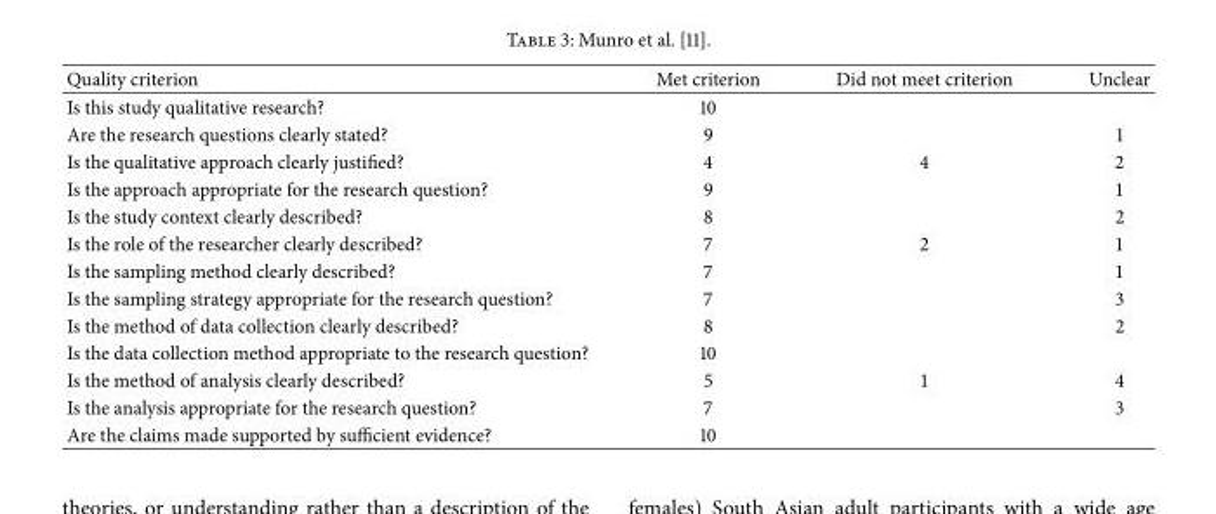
<table><thead><tr><td>Quality criterion</td><td>Met criterion</td><td>Did not meet criterion</td><td>Unclear</td></tr></thead><tbody><tr><td>Is this study qualitative research?</td><td>10</td><td></td><td></td></tr><tr><td>Are the research questions clearly stated?</td><td>9</td><td></td><td>1</td></tr><tr><td>Is the qualitative approach clearly justified?</td><td>4</td><td>4</td><td>2</td></tr><tr><td>Is the approach appropriate for the research question?</td><td>9</td><td></td><td>1</td></tr><tr><td>Is the study context clearly described?</td><td>8</td><td></td><td>2</td></tr><tr><td>Is the role of the researcher clearly described?</td><td>7</td><td>2</td><td>1</td></tr><tr><td>Is the sampling method clearly described?</td><td>7</td><td></td><td>1</td></tr><tr><td>Is the sampling strategy appropriate for the research question?</td><td>7</td><td></td><td>3</td></tr><tr><td>Is the method of data collection clearly described?</td><td>8</td><td></td><td>2</td></tr><tr><td>Is the data collection method appropriate to the research question?</td><td>10</td><td></td><td></td></tr><tr><td>Is the method of analysis clearly described?</td><td>5</td><td>1</td><td>4</td></tr><tr><td>Is the analysis appropriate for the research question?</td><td>7</td><td></td><td>3</td></tr><tr><td>Are the claims made supported by sufficient evidence?</td><td>10</td><td></td><td></td></tr></tbody></table>